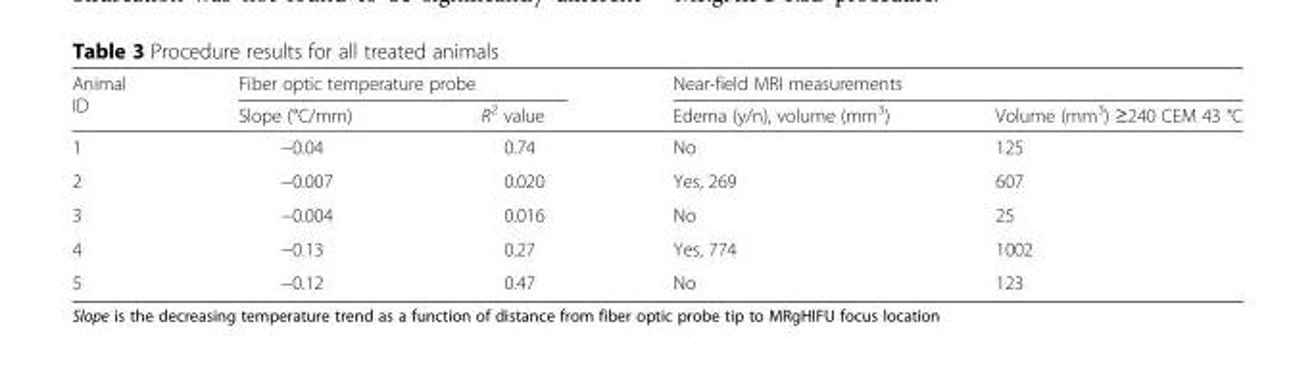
<table><thead><tr><td rowspan="2">Animal ID</td><td colspan="2">Fiber optic temperature probe</td><td colspan="2">Near-field MRI measurements</td></tr><tr><td>Slope (°C/mm)</td><td>R<sup>2</sup> value</td><td>Edema (y/n), volume (mm<sup>3</sup>)</td><td>Volume (mm<sup>3</sup>) ≥240 CEM 43 °C</td></tr></thead><tbody><tr><td>1</td><td>−0.04</td><td>0.74</td><td>No</td><td>125</td></tr><tr><td>2</td><td>−0.007</td><td>0.020</td><td>Yes, 269</td><td>607</td></tr><tr><td>3</td><td>−0.004</td><td>0.016</td><td>No</td><td>25</td></tr><tr><td>4</td><td>−0.13</td><td>0.27</td><td>Yes, 774</td><td>1002</td></tr><tr><td>5</td><td>−0.12</td><td>0.47</td><td>No</td><td>123</td></tr></tbody></table>